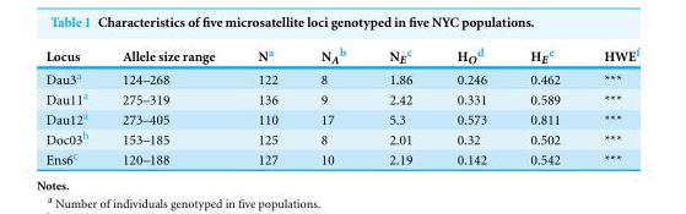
<table><thead><tr><td>Locus</td><td>Allele size range</td><td>N<sup>a</sup></td><td>N<sub>A</sub><sup>b</sup></td><td>N<sub>E</sub><sup>c</sup></td><td>H<sub>O</sub><sup>d</sup></td><td>H<sub>E</sub><sup>e</sup></td><td>HWE<sup>f</sup></td></tr></thead><tbody><tr><td>Dau3<sup>a</sup></td><td>124–268</td><td>122</td><td>8</td><td>1.86</td><td>0.246</td><td>0.462</td><td>***</td></tr><tr><td>Dau11<sup>a</sup></td><td>275–319</td><td>136</td><td>9</td><td>2.42</td><td>0.331</td><td>0.589</td><td>***</td></tr><tr><td>Dau12<sup>a</sup></td><td>273–405</td><td>110</td><td>17</td><td>5.3</td><td>0.573</td><td>0.811</td><td>***</td></tr><tr><td>Doc03<sup>b</sup></td><td>153–185</td><td>125</td><td>8</td><td>2.01</td><td>0.32</td><td>0.502</td><td>***</td></tr><tr><td>Ens6<sup>c</sup></td><td>120–188</td><td>127</td><td>10</td><td>2.19</td><td>0.142</td><td>0.542</td><td>***</td></tr></tbody></table>